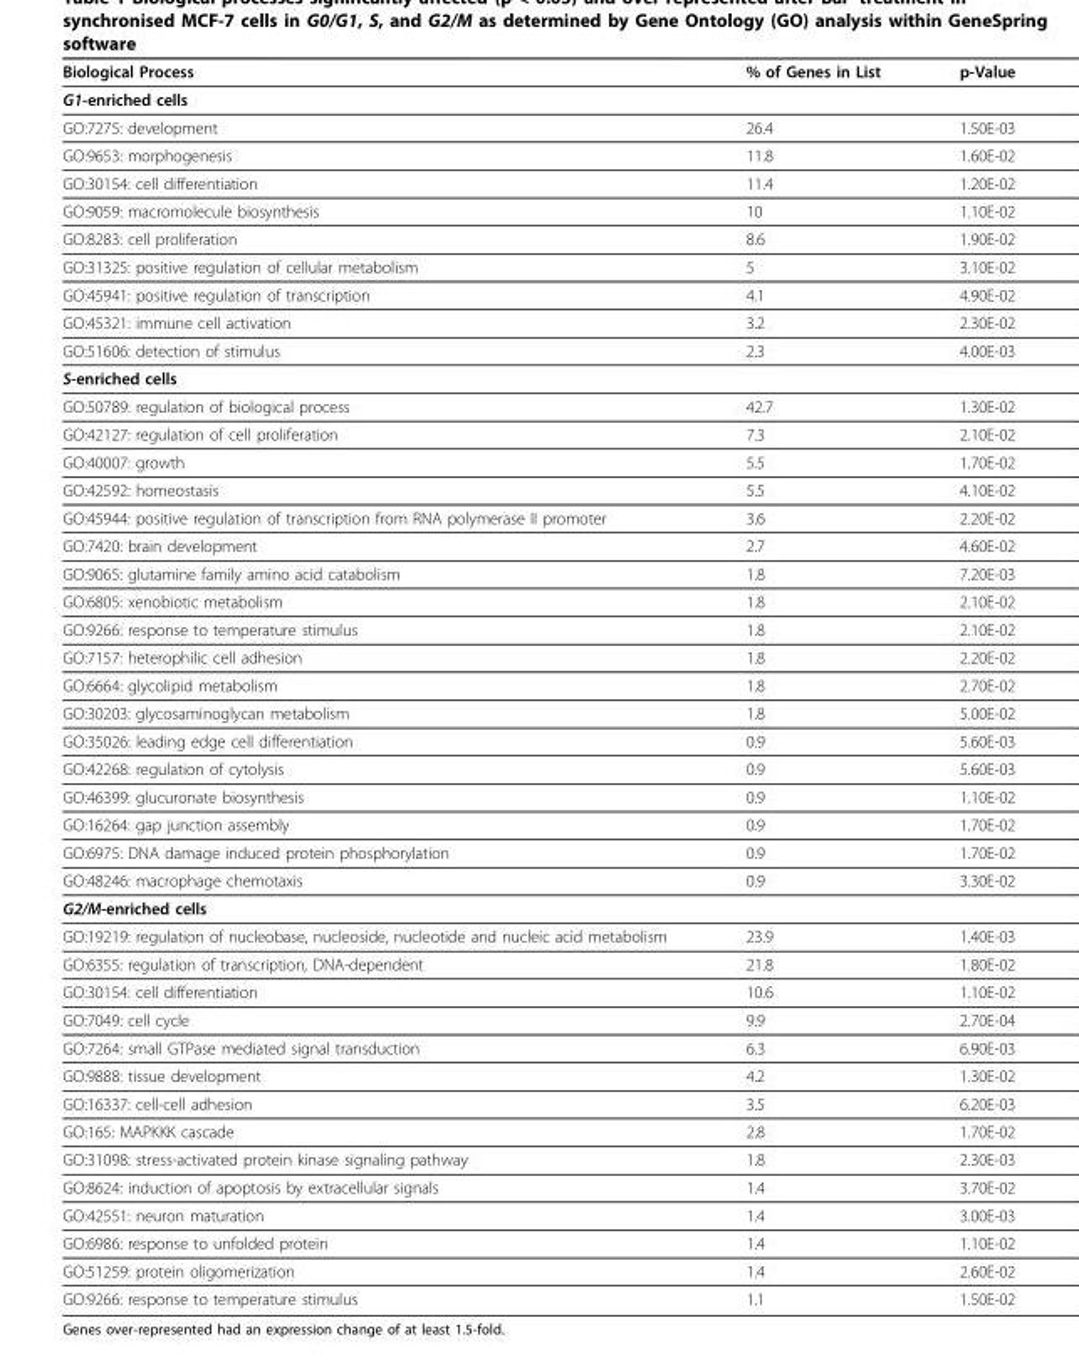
<table><thead><tr><td>Biological Process</td><td>% of Genes in List</td><td>p-Value</td></tr></thead><tbody><tr><td colspan="3">G1-enriched cells</td></tr><tr><td>GO:7275: development</td><td>26.4</td><td>1.50E-03</td></tr><tr><td>GO:9653: morphogenesis</td><td>11.8</td><td>1.60E-02</td></tr><tr><td>GO:30154: cell differentiation</td><td>11.4</td><td>1.20E-02</td></tr><tr><td>GO:9059: macromolecule biosynthesis</td><td>10</td><td>1.10E-02</td></tr><tr><td>GO:8283: cell proliferation</td><td>8.6</td><td>1.90E-02</td></tr><tr><td>GO:31325: positive regulation of cellular metabolism</td><td>5</td><td>3.10E-02</td></tr><tr><td>GO:45941: positive regulation of transcription</td><td>4.1</td><td>4.90E-02</td></tr><tr><td>GO:45321: immune cell activation</td><td>3.2</td><td>2.30E-02</td></tr><tr><td>GO:51606: detection of stimulus</td><td>2.3</td><td>4.00E-03</td></tr><tr><td colspan="3">S-enriched cells</td></tr><tr><td>GO:50789: regulation of biological process</td><td>42.7</td><td>1.30E-02</td></tr><tr><td>GO:42127: regulation of cell proliferation</td><td>7.3</td><td>2.10E-02</td></tr><tr><td>GO:40007: growth</td><td>5.5</td><td>1.70E-02</td></tr><tr><td>GO:42592: homeostasis</td><td>5.5</td><td>4.10E-02</td></tr><tr><td>GO:45944: positive regulation of transcription from RNA polymerase II promoter</td><td>3.6</td><td>2.20E-02</td></tr><tr><td>GO:7420: brain development</td><td>2.7</td><td>4.60E-02</td></tr><tr><td>GO:9065: glutamine family amino acid catabolism</td><td>1.8</td><td>7.20E-03</td></tr><tr><td>GO:6805: xenobiotic metabolism</td><td>1.8</td><td>2.10E-02</td></tr><tr><td>GO:9266: response to temperature stimulus</td><td>1.8</td><td>2.10E-02</td></tr><tr><td>GO:7157: heterophilic cell adhesion</td><td>1.8</td><td>2.20E-02</td></tr><tr><td>GO:6664: glycolipid metabolism</td><td>1.8</td><td>2.70E-02</td></tr><tr><td>GO:30203: glycosaminoglycan metabolism</td><td>1.8</td><td>5.00E-02</td></tr><tr><td>GO:35026: leading edge cell differentiation</td><td>0.9</td><td>5.60E-03</td></tr><tr><td>GO:42268: regulation of cytolysis</td><td>0.9</td><td>5.60E-03</td></tr><tr><td>GO:46399: glucuronate biosynthesis</td><td>0.9</td><td>1.10E-02</td></tr><tr><td>GO:16264: gap junction assembly</td><td>0.9</td><td>1.70E-02</td></tr><tr><td>GO:6975: DNA damage induced protein phosphorylation</td><td>0.9</td><td>1.70E-02</td></tr><tr><td>GO:48246: macrophage chemotaxis</td><td>0.9</td><td>3.30E-02</td></tr><tr><td colspan="3">G2/M-enriched cells</td></tr><tr><td>GO:19219: regulation of nucleobase, nucleoside, nucleotide and nucleic acid metabolism</td><td>23.9</td><td>1.40E-03</td></tr><tr><td>GO:6355: regulation of transcription, DNA-dependent</td><td>21.8</td><td>1.80E-02</td></tr><tr><td>GO:30154: cell differentiation</td><td>10.6</td><td>1.10E-02</td></tr><tr><td>GO:7049: cell cycle</td><td>9.9</td><td>2.70E-04</td></tr><tr><td>GO:7264: small GTPase mediated signal transduction</td><td>6.3</td><td>6.90E-03</td></tr><tr><td>GO:9888: tissue development</td><td>4.2</td><td>1.30E-02</td></tr><tr><td>GO:16337: cell-cell adhesion</td><td>3.5</td><td>6.20E-03</td></tr><tr><td>GO:165: MAPKKK cascade</td><td>2.8</td><td>1.70E-02</td></tr><tr><td>GO:31098: stress-activated protein kinase signaling pathway</td><td>1.8</td><td>2.30E-03</td></tr><tr><td>GO:8624: induction of apoptosis by extracellular signals</td><td>1.4</td><td>3.70E-02</td></tr><tr><td>GO:42551: neuron maturation</td><td>1.4</td><td>3.00E-03</td></tr><tr><td>GO:6986: response to unfolded protein</td><td>1.4</td><td>1.10E-02</td></tr><tr><td>GO:51259: protein oligomerization</td><td>1.4</td><td>2.60E-02</td></tr><tr><td>GO:9266: response to temperature stimulus</td><td>1.1</td><td>1.50E-02</td></tr></tbody></table>